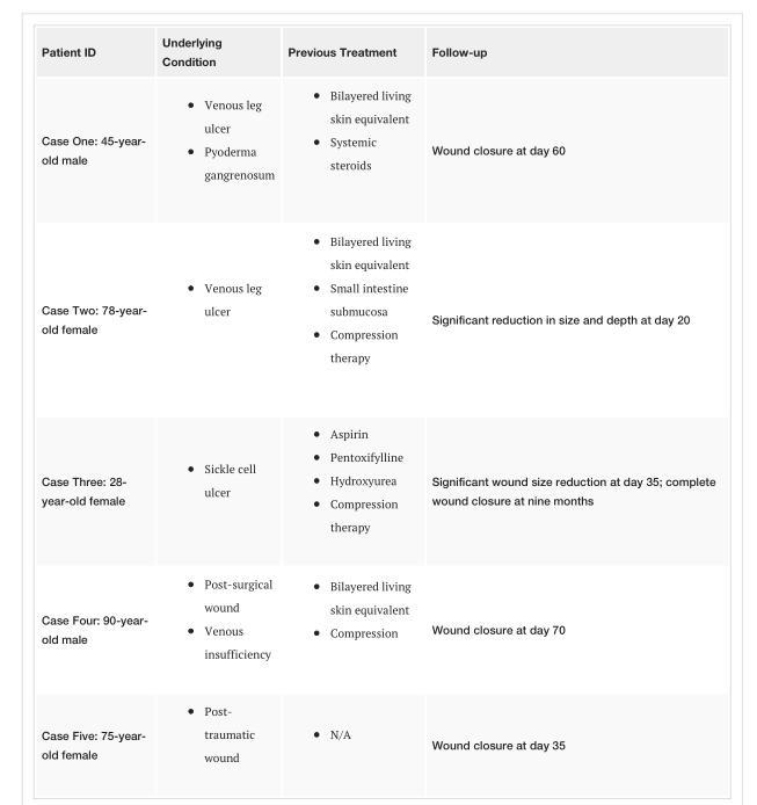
<table><tbody><tr><td>Patient ID</td><td>Underlying Condition</td><td>Previous Treatment</td><td>Follow-up</td></tr><tr><td>Case One: 45-year- old male</td><td>Venous leg ulcer Pyoderma gangrenosum</td><td>Bilayered living skin equivalent Systemic steroids</td><td>Wound closure at day 60</td></tr><tr><td>Case Two: 78-year- old female</td><td>Venous leg ulcer</td><td>Bilayered living skin equivalent Small intestine submucosa Compression therapy</td><td>Significant reduction in size and depth at day 20</td></tr><tr><td>Case Three: 28- year-old female</td><td>Sickle cell ulcer</td><td>Aspirin Pentoxifylline Hydroxyurea Compression therapy</td><td>Significant wound size reduction at day 35; complete wound closure at nine months</td></tr><tr><td>Case Four: 90-year- old male</td><td>Post-surgical wound Venous insufficiency</td><td>Bilayered living skin equivalent Compression</td><td>Wound closure at day 70</td></tr><tr><td>Case Five: 75-year- old female</td><td>Post- traumatic wound</td><td>N/A</td><td>Wound closure at day 35</td></tr></tbody></table>